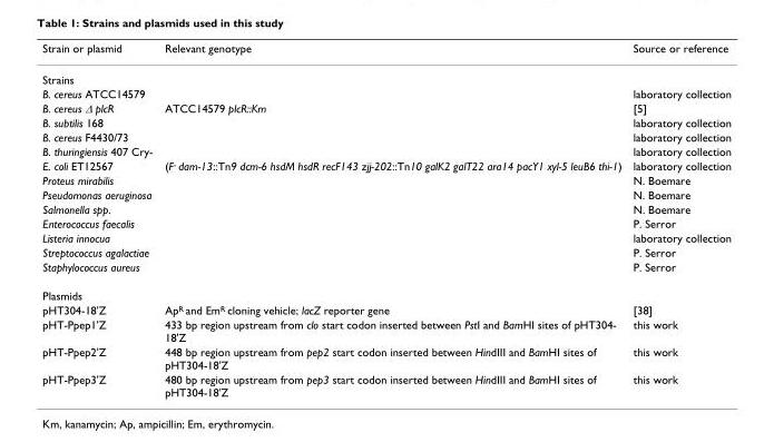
<table><thead><tr><td>Strain or plasmid</td><td>Relevant genotype</td><td>Source or reference</td></tr></thead><tbody><tr><td colspan="3">Strains</td></tr><tr><td>B. cereus ATCC14579</td><td></td><td>laboratory collection</td></tr><tr><td>B. cereus Δ plcR</td><td>ATCC14579 plcR::Km</td><td>[5]</td></tr><tr><td>B. subtilis 168</td><td></td><td>laboratory collection</td></tr><tr><td>B. cereus F4430/73</td><td></td><td>laboratory collection</td></tr><tr><td>B. thuringiensis 407 Cry-</td><td></td><td>laboratory collection</td></tr><tr><td>E. coli ET12567</td><td>(F<sup>-</sup> dam-13::Tn9 dcm-6 hsdM hsdR recF143 zjj-202::Tn10 galK2 galT22 ara14 pacY1 xyl-5 leuB6 thi-1)</td><td>laboratory collection</td></tr><tr><td>Proteus mirabilis</td><td></td><td>N. Boemare</td></tr><tr><td>Pseudomonas aeruginosa</td><td></td><td>N. Boemare</td></tr><tr><td>Salmonella spp.</td><td></td><td>N. Boemare</td></tr><tr><td>Enterococcus faecalis</td><td></td><td>P. Serror</td></tr><tr><td>Listeria innocua</td><td></td><td>laboratory collection</td></tr><tr><td>Streptococcus agalactiae</td><td></td><td>P. Serror</td></tr><tr><td>Staphylococcus aureus</td><td></td><td>P. Serror</td></tr><tr><td colspan="3">Plasmids</td></tr><tr><td>pHT304-18&#x27;Z</td><td>Ap<sup>R</sup> and Em<sup>R</sup> cloning vehicle; lacZ reporter gene</td><td>[38]</td></tr><tr><td>pHT-Ppep1&#x27;Z</td><td>433 bp region upstream from clo start codon inserted between PstI and BamHI sites of pHT304- 18&#x27;Z</td><td>this work</td></tr><tr><td>pHT-Ppep2&#x27;Z</td><td>448 bp region upstream from pep2 start codon inserted between HindIII and BamHI sites of pHT304-18&#x27;Z</td><td>this work</td></tr><tr><td>pHT-Ppep3&#x27;Z</td><td>480 bp region upstream from pep3 start codon inserted between HindIII and BamHI sites of pHT304-18&#x27;Z</td><td>this work</td></tr></tbody></table>